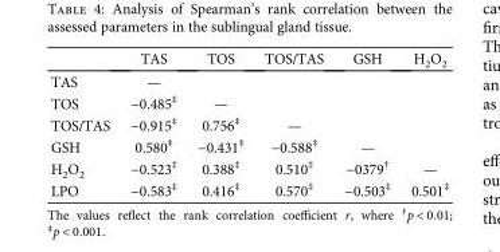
<table><thead><tr><td></td><td>TAS</td><td>TOS</td><td>TOS/TAS</td><td>GSH</td><td>H<sub>2</sub>O<sub>2</sub></td></tr></thead><tbody><tr><td>TAS</td><td>—</td><td></td><td></td><td></td><td></td></tr><tr><td>TOS</td><td>−0.485<sup>‡</sup></td><td>—</td><td></td><td></td><td></td></tr><tr><td>TOS/TAS</td><td>−0.915<sup>‡</sup></td><td>0.756<sup>‡</sup></td><td>—</td><td></td><td></td></tr><tr><td>GSH</td><td>0.580<sup>‡</sup></td><td>−0.431<sup>‡</sup></td><td>−0.588<sup>‡</sup></td><td>—</td><td></td></tr><tr><td>H<sub>2</sub>O<sub>2</sub></td><td>−0.523<sup>‡</sup></td><td>0.388<sup>‡</sup></td><td>0.510<sup>‡</sup></td><td>−0379<sup>†</sup></td><td>—</td></tr><tr><td>LPO</td><td>−0.583<sup>‡</sup></td><td>0.416<sup>‡</sup></td><td>0.570<sup>‡</sup></td><td>−0.503<sup>‡</sup></td><td>0.501<sup>‡</sup></td></tr></tbody></table>